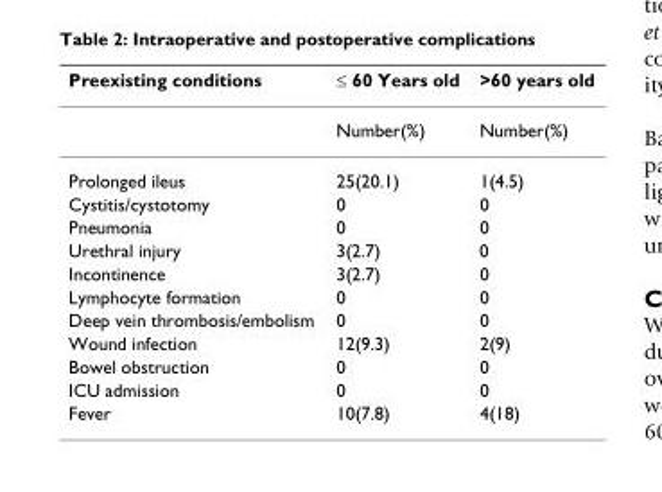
<table><thead><tr><td>Preexisting conditions</td><td>≤ 60 Years old</td><td>&gt;60 years old</td></tr></thead><tbody><tr><td></td><td>Number(%)</td><td>Number(%)</td></tr><tr><td>Prolonged ileus</td><td>25(20.1)</td><td>1(4.5)</td></tr><tr><td>Cystitis/cystotomy</td><td>0</td><td>0</td></tr><tr><td>Pneumonia</td><td>0</td><td>0</td></tr><tr><td>Urethral injury</td><td>3(2.7)</td><td>0</td></tr><tr><td>Incontinence</td><td>3(2.7)</td><td>0</td></tr><tr><td>Lymphocyte formation</td><td>0</td><td>0</td></tr><tr><td>Deep vein thrombosis/embolism</td><td>0</td><td>0</td></tr><tr><td>Wound infection</td><td>12(9.3)</td><td>2(9)</td></tr><tr><td>Bowel obstruction</td><td>0</td><td>0</td></tr><tr><td>ICU admission</td><td>0</td><td>0</td></tr><tr><td>Fever</td><td>10(7.8)</td><td>4(18)</td></tr></tbody></table>